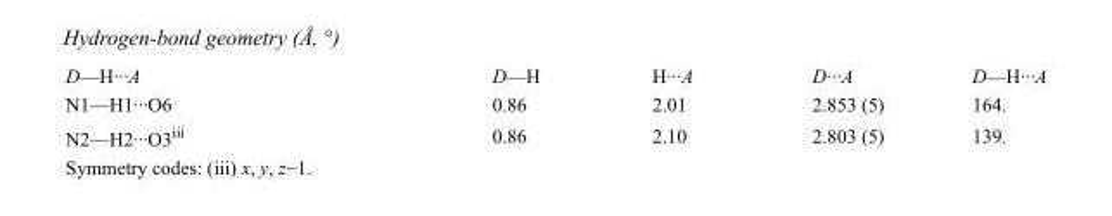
<table><tbody><tr><td>D—H···A</td><td>D—H</td><td>H···A</td><td>D···A</td><td>D—H···A</td></tr><tr><td>N1—H1···O6</td><td>0.86</td><td>2.01</td><td>2.853 (5)</td><td>164.</td></tr><tr><td>N2—H2···O3<sup>iii</sup></td><td>0.86</td><td>2.10</td><td>2.803 (5)</td><td>139.</td></tr></tbody></table>